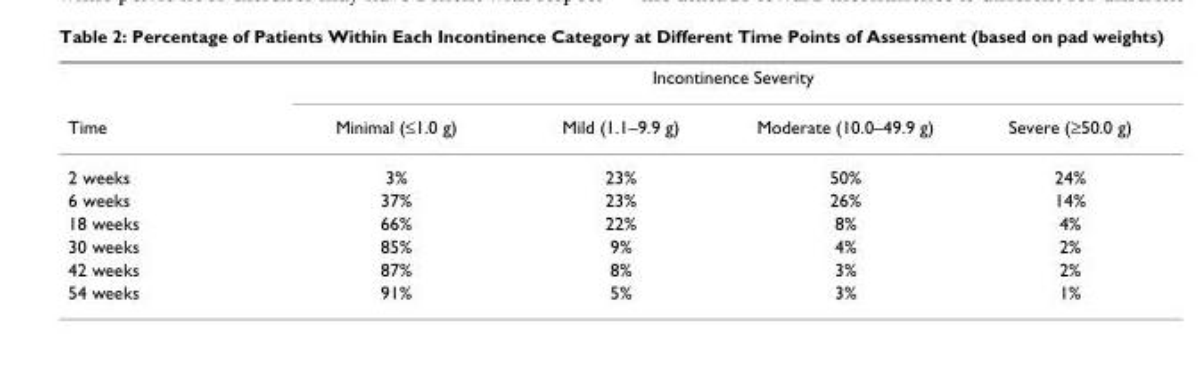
<table><thead><tr><td rowspan="2">Time</td><td colspan="4">Incontinence Severity</td></tr><tr><td>Minimal (≤1.0 g)</td><td>Mild (1.1–9.9 g)</td><td>Moderate (10.0–49.9 g)</td><td>Severe (≥50.0 g)</td></tr></thead><tbody><tr><td>2 weeks</td><td>3%</td><td>23%</td><td>50%</td><td>24%</td></tr><tr><td>6 weeks</td><td>37%</td><td>23%</td><td>26%</td><td>14%</td></tr><tr><td>18 weeks</td><td>66%</td><td>22%</td><td>8%</td><td>4%</td></tr><tr><td>30 weeks</td><td>85%</td><td>9%</td><td>4%</td><td>2%</td></tr><tr><td>42 weeks</td><td>87%</td><td>8%</td><td>3%</td><td>2%</td></tr><tr><td>54 weeks</td><td>91%</td><td>5%</td><td>3%</td><td>1%</td></tr></tbody></table>